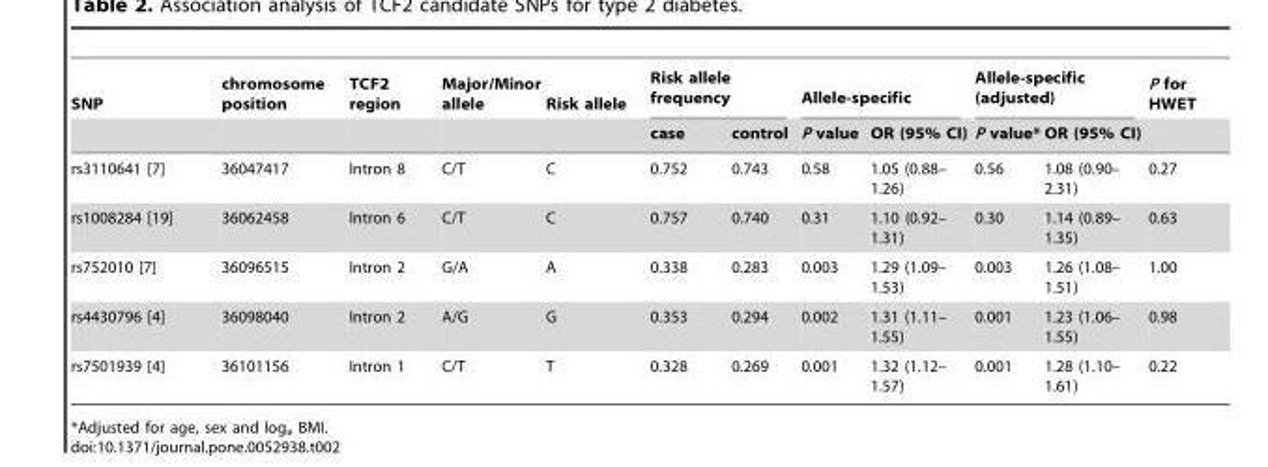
<table><thead><tr><td rowspan="2">SNP</td><td rowspan="2">chromosome position</td><td rowspan="2">TCF2 region</td><td rowspan="2">Major/Minor allele</td><td rowspan="2">Risk allele</td><td colspan="2">Risk allele frequency</td><td colspan="2">Allele-specific</td><td colspan="2">Allele-specific (adjusted)</td><td rowspan="2">P for HWET</td></tr><tr><td>case</td><td>control</td><td>P value</td><td>OR (95% CI)</td><td>P value*</td><td>OR (95% CI)</td></tr></thead><tbody><tr><td>rs3110641 [7]</td><td>36047417</td><td>Intron 8</td><td>C/T</td><td>C</td><td>0.752</td><td>0.743</td><td>0.58</td><td>1.05 (0.88– 1.26)</td><td>0.56</td><td>1.08 (0.90– 2.31)</td><td>0.27</td></tr><tr><td>rs1008284 [19]</td><td>36062458</td><td>Intron 6</td><td>C/T</td><td>C</td><td>0.757</td><td>0.740</td><td>0.31</td><td>1.10 (0.92– 1.31)</td><td>0.30</td><td>1.14 (0.89– 1.35)</td><td>0.63</td></tr><tr><td>rs752010 [7]</td><td>36096515</td><td>Intron 2</td><td>G/A</td><td>A</td><td>0.338</td><td>0.283</td><td>0.003</td><td>1.29 (1.09– 1.53)</td><td>0.003</td><td>1.26 (1.08– 1.51)</td><td>1.00</td></tr><tr><td>rs4430796 [4]</td><td>36098040</td><td>Intron 2</td><td>A/G</td><td>G</td><td>0.353</td><td>0.294</td><td>0.002</td><td>1.31 (1.11– 1.55)</td><td>0.001</td><td>1.23 (1.06– 1.55)</td><td>0.98</td></tr><tr><td>rs7501939 [4]</td><td>36101156</td><td>Intron 1</td><td>C/T</td><td>T</td><td>0.328</td><td>0.269</td><td>0.001</td><td>1.32 (1.12– 1.57)</td><td>0.001</td><td>1.28 (1.10– 1.61)</td><td>0.22</td></tr></tbody></table>